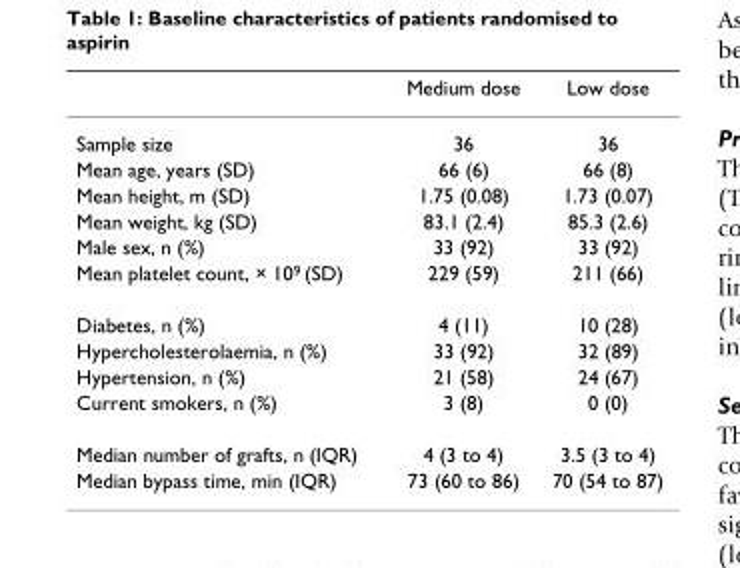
<table><thead><tr><td></td><td>Medium dose</td><td>Low dose</td></tr></thead><tbody><tr><td>Sample size</td><td>36</td><td>36</td></tr><tr><td>Mean age, years (SD)</td><td>66 (6)</td><td>66 (8)</td></tr><tr><td>Mean height, m (SD)</td><td>1.75 (0.08)</td><td>1.73 (0.07)</td></tr><tr><td>Mean weight, kg (SD)</td><td>83.1 (2.4)</td><td>85.3 (2.6)</td></tr><tr><td>Male sex, n (%)</td><td>33 (92)</td><td>33 (92)</td></tr><tr><td>Mean platelet count, × 109 (SD)</td><td>229 (59)</td><td>211 (66)</td></tr><tr><td>Diabetes, n (%)</td><td>4 (11)</td><td>10 (28)</td></tr><tr><td>Hypercholesterolaemia, n (%)</td><td>33 (92)</td><td>32 (89)</td></tr><tr><td>Hypertension, n (%)</td><td>21 (58)</td><td>24 (67)</td></tr><tr><td>Current smokers, n (%)</td><td>3 (8)</td><td>0 (0)</td></tr><tr><td>Median number of grafts, n (IQR)</td><td>4 (3 to 4)</td><td>3.5 (3 to 4)</td></tr><tr><td>Median bypass time, min (IQR)</td><td>73 (60 to 86)</td><td>70 (54 to 87)</td></tr></tbody></table>